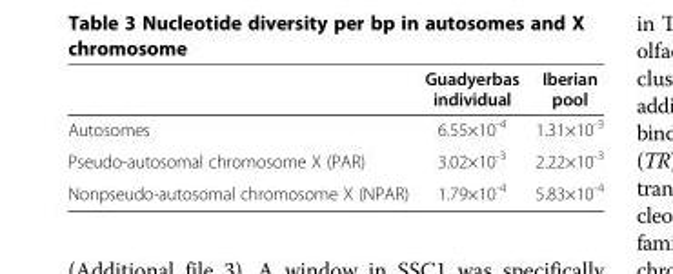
<table><thead><tr><td></td><td>Guadyerbas individual</td><td>Iberian pool</td></tr></thead><tbody><tr><td>Autosomes</td><td>6.55×10<sup>-4</sup></td><td>1.31×10<sup>-3</sup></td></tr><tr><td>Pseudo-autosomal chromosome X (PAR)</td><td>3.02×10<sup>-3</sup></td><td>2.22×10<sup>-3</sup></td></tr><tr><td>Nonpseudo-autosomal chromosome X (NPAR)</td><td>1.79×10<sup>-4</sup></td><td>5.83×10<sup>-4</sup></td></tr></tbody></table>